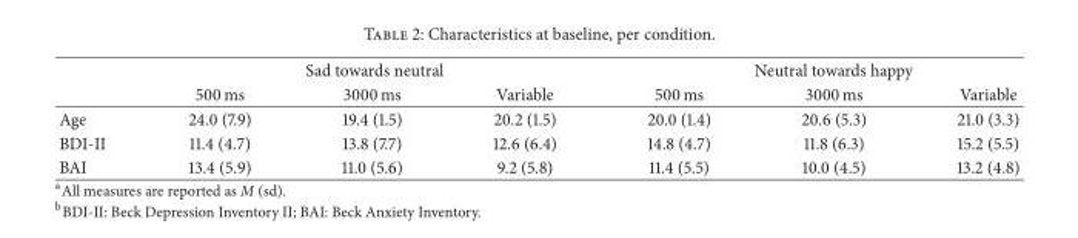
<table><thead><tr><td rowspan="2"></td><td colspan="3">Sad towards neutral</td><td colspan="3">Neutral towards happy</td></tr><tr><td>500 ms</td><td>3000 ms</td><td>Variable</td><td>500 ms</td><td>3000 ms</td><td>Variable</td></tr></thead><tbody><tr><td>Age</td><td>24.0 (7.9)</td><td>19.4 (1.5)</td><td>20.2 (1.5)</td><td>20.0 (1.4)</td><td>20.6 (5.3)</td><td>21.0 (3.3)</td></tr><tr><td>BDI-II</td><td>11.4 (4.7)</td><td>13.8 (7.7)</td><td>12.6 (6.4)</td><td>14.8 (4.7)</td><td>11.8 (6.3)</td><td>15.2 (5.5)</td></tr><tr><td>BAI</td><td>13.4 (5.9)</td><td>11.0 (5.6)</td><td>9.2 (5.8)</td><td>11.4 (5.5)</td><td>10.0 (4.5)</td><td>13.2 (4.8)</td></tr></tbody></table>